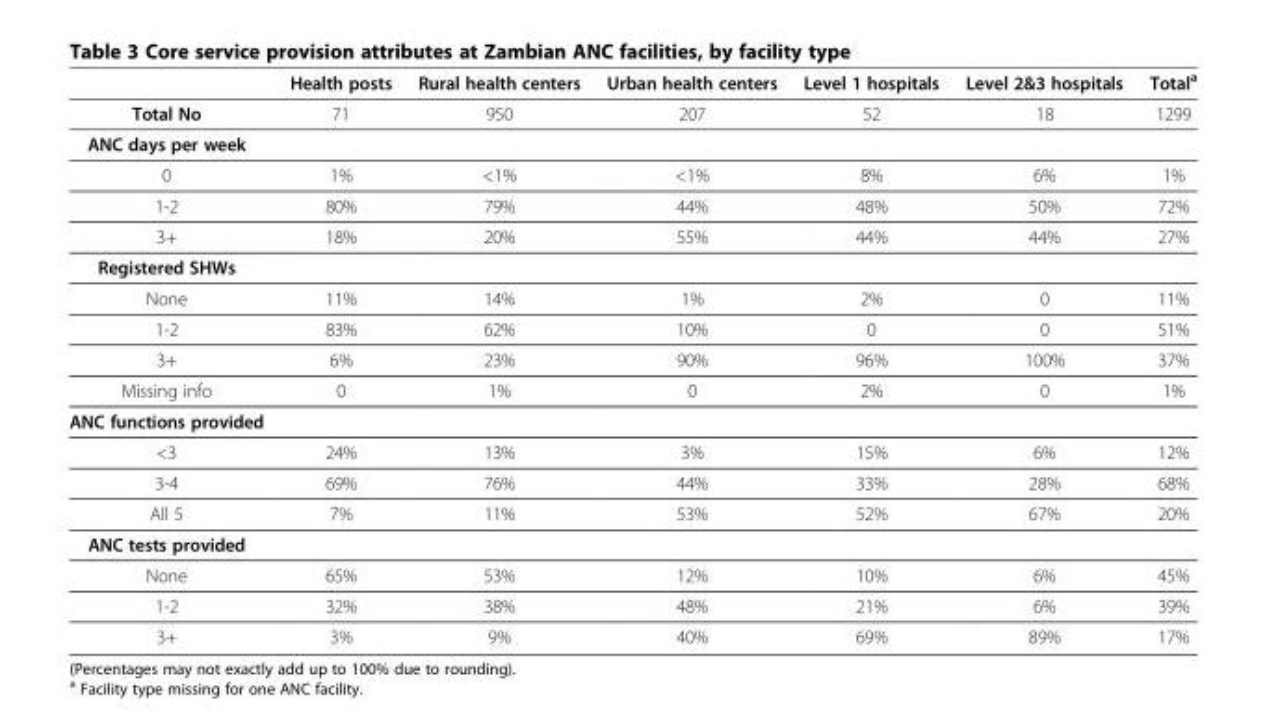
<table><thead><tr><td></td><td>Health posts</td><td>Rural health centers</td><td>Urban health centers</td><td>Level 1 hospitals</td><td>Level 2&amp;3 hospitals</td><td>Total<sup>a</sup></td></tr></thead><tbody><tr><td>Total No</td><td>71</td><td>950</td><td>207</td><td>52</td><td>18</td><td>1299</td></tr><tr><td colspan="7">ANC days per week</td></tr><tr><td>0</td><td>1%</td><td>&lt;1%</td><td>&lt;1%</td><td>8%</td><td>6%</td><td>1%</td></tr><tr><td>1-2</td><td>80%</td><td>79%</td><td>44%</td><td>48%</td><td>50%</td><td>72%</td></tr><tr><td>3+</td><td>18%</td><td>20%</td><td>55%</td><td>44%</td><td>44%</td><td>27%</td></tr><tr><td colspan="7">Registered SHWs</td></tr><tr><td>None</td><td>11%</td><td>14%</td><td>1%</td><td>2%</td><td>0</td><td>11%</td></tr><tr><td>1-2</td><td>83%</td><td>62%</td><td>10%</td><td>0</td><td>0</td><td>51%</td></tr><tr><td>3+</td><td>6%</td><td>23%</td><td>90%</td><td>96%</td><td>100%</td><td>37%</td></tr><tr><td>Missing info</td><td>0</td><td>1%</td><td>0</td><td>2%</td><td>0</td><td>1%</td></tr><tr><td colspan="7">ANC functions provided</td></tr><tr><td>&lt;3</td><td>24%</td><td>13%</td><td>3%</td><td>15%</td><td>6%</td><td>12%</td></tr><tr><td>3-4</td><td>69%</td><td>76%</td><td>44%</td><td>33%</td><td>28%</td><td>68%</td></tr><tr><td>All 5</td><td>7%</td><td>11%</td><td>53%</td><td>52%</td><td>67%</td><td>20%</td></tr><tr><td colspan="7">ANC tests provided</td></tr><tr><td>None</td><td>65%</td><td>53%</td><td>12%</td><td>10%</td><td>6%</td><td>45%</td></tr><tr><td>1-2</td><td>32%</td><td>38%</td><td>48%</td><td>21%</td><td>6%</td><td>39%</td></tr><tr><td>3+</td><td>3%</td><td>9%</td><td>40%</td><td>69%</td><td>89%</td><td>17%</td></tr></tbody></table>